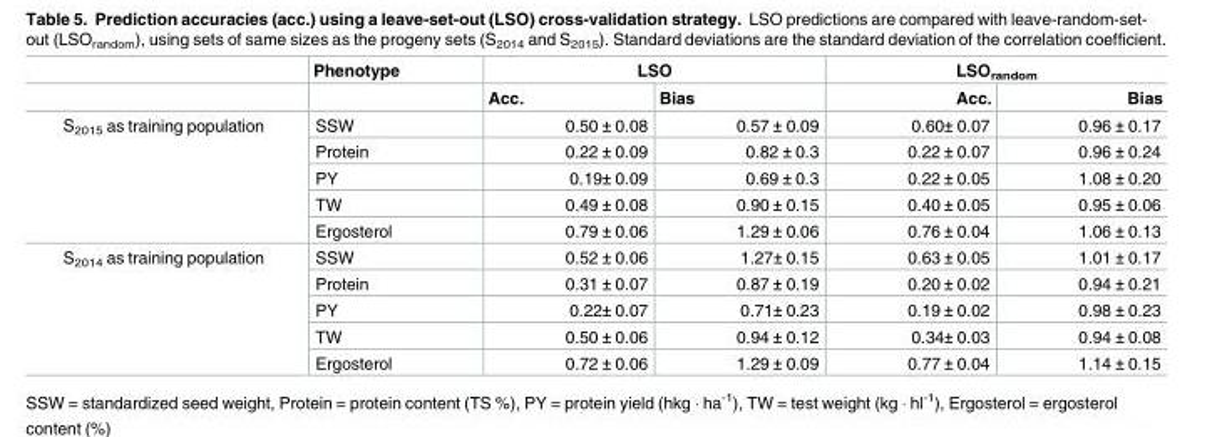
<table><thead><tr><td rowspan="2"></td><td rowspan="2">Phenotype</td><td colspan="2">LSO</td><td colspan="2">LSO<sub>random</sub></td></tr><tr><td>Acc.</td><td>Bias</td><td>Acc.</td><td>Bias</td></tr></thead><tbody><tr><td rowspan="5">S<sub>2015</sub> as training population</td><td>SSW</td><td>0.50 ± 0.08</td><td>0.57 ± 0.09</td><td>0.60± 0.07</td><td>0.96 ± 0.17</td></tr><tr><td>Protein</td><td>0.22 ± 0.09</td><td>0.82 ± 0.3</td><td>0.22 ± 0.07</td><td>0.96 ± 0.24</td></tr><tr><td>PY</td><td>0.19± 0.09</td><td>0.69 ± 0.3</td><td>0.22 ± 0.05</td><td>1.08 ± 0.20</td></tr><tr><td>TW</td><td>0.49 ± 0.08</td><td>0.90 ± 0.15</td><td>0.40 ± 0.05</td><td>0.95 ± 0.06</td></tr><tr><td>Ergosterol</td><td>0.79 ± 0.06</td><td>1.29 ± 0.06</td><td>0.76 ± 0.04</td><td>1.06 ± 0.13</td></tr><tr><td rowspan="5">S<sub>2014</sub> as training population</td><td>SSW</td><td>0.52 ± 0.06</td><td>1.27± 0.15</td><td>0.63 ± 0.05</td><td>1.01 ± 0.17</td></tr><tr><td>Protein</td><td>0.31 ± 0.07</td><td>0.87 ± 0.19</td><td>0.20 ± 0.02</td><td>0.94 ± 0.21</td></tr><tr><td>PY</td><td>0.22± 0.07</td><td>0.71± 0.23</td><td>0.19 ± 0.02</td><td>0.98 ± 0.23</td></tr><tr><td>TW</td><td>0.50 ± 0.06</td><td>0.94 ± 0.12</td><td>0.34± 0.03</td><td>0.94 ± 0.08</td></tr><tr><td>Ergosterol</td><td>0.72 ± 0.06</td><td>1.29 ± 0.09</td><td>0.77 ± 0.04</td><td>1.14 ± 0.15</td></tr></tbody></table>